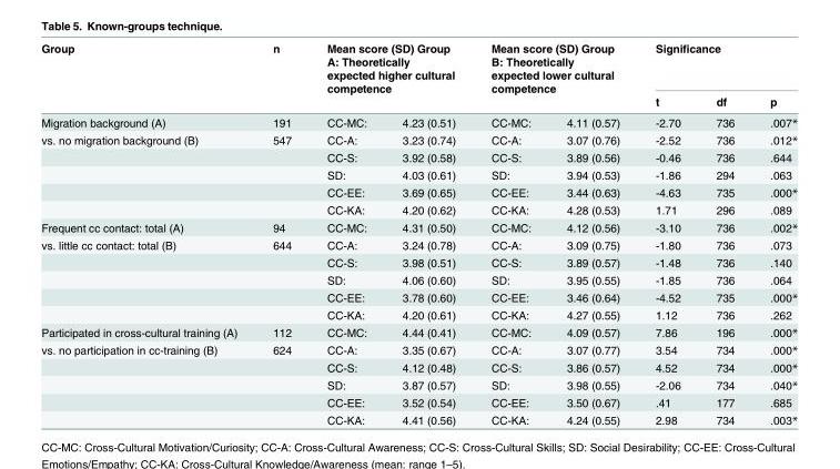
<table><thead><tr><td rowspan="2">Group</td><td rowspan="2">n</td><td colspan="2">Mean score (SD) Group A: Theoretically expected higher cultural competence</td><td colspan="2">Mean score (SD) Group B: Theoretically expected lower cultural competence</td><td colspan="3">Significance</td></tr><tr><td></td><td></td><td></td><td></td><td>t</td><td>df</td><td>p</td></tr></thead><tbody><tr><td>Migration background (A)</td><td>191</td><td>CC-MC:</td><td>4.23 (0.51)</td><td>CC-MC:</td><td>4.11 (0.57)</td><td>-2.70</td><td>736</td><td>.007*</td></tr><tr><td rowspan="5">vs. no migration background (B)</td><td>547</td><td>CC-A:</td><td>3.23 (0.74)</td><td>CC-A:</td><td>3.07 (0.76)</td><td>-2.52</td><td>736</td><td>.012*</td></tr><tr><td></td><td>CC-S:</td><td>3.92 (0.58)</td><td>CC-S:</td><td>3.89 (0.56)</td><td>-0.46</td><td>736</td><td>.644</td></tr><tr><td></td><td>SD:</td><td>4.03 (0.61)</td><td>SD:</td><td>3.94 (0.53)</td><td>-1.86</td><td>294</td><td>.063</td></tr><tr><td></td><td>CC-EE:</td><td>3.69 (0.65)</td><td>CC-EE:</td><td>3.44 (0.63)</td><td>-4.63</td><td>735</td><td>.000*</td></tr><tr><td></td><td>CC-KA:</td><td>4.20 (0.62)</td><td>CC-KA:</td><td>4.28 (0.53)</td><td>1.71</td><td>296</td><td>.089</td></tr><tr><td>Frequent cc contact: total (A)</td><td>94</td><td>CC-MC:</td><td>4.31 (0.50)</td><td>CC-MC:</td><td>4.12 (0.56)</td><td>-3.10</td><td>736</td><td>.002*</td></tr><tr><td rowspan="5">vs. little cc contact: total (B)</td><td>644</td><td>CC-A:</td><td>3.24 (0.78)</td><td>CC-A:</td><td>3.09 (0.75)</td><td>-1.80</td><td>736</td><td>.073</td></tr><tr><td></td><td>CC-S:</td><td>3.98 (0.51)</td><td>CC-S:</td><td>3.89 (0.57)</td><td>-1.48</td><td>736</td><td>.140</td></tr><tr><td></td><td>SD:</td><td>4.06 (0.60)</td><td>SD:</td><td>3.95 (0.55)</td><td>-1.85</td><td>736</td><td>.064</td></tr><tr><td></td><td>CC-EE:</td><td>3.78 (0.60)</td><td>CC-EE:</td><td>3.46 (0.64)</td><td>-4.52</td><td>735</td><td>.000*</td></tr><tr><td></td><td>CC-KA:</td><td>4.20 (0.61)</td><td>CC-KA:</td><td>4.27 (0.55)</td><td>1.12</td><td>736</td><td>.262</td></tr><tr><td>Participated in cross-cultural training (A)</td><td>112</td><td>CC-MC:</td><td>4.44 (0.41)</td><td>CC-MC:</td><td>4.09 (0.57)</td><td>7.86</td><td>196</td><td>.000*</td></tr><tr><td rowspan="5">vs. no participation in cc-training (B)</td><td>624</td><td>CC-A:</td><td>3.35 (0.67)</td><td>CC-A:</td><td>3.07 (0.77)</td><td>3.54</td><td>734</td><td>.000*</td></tr><tr><td></td><td>CC-S:</td><td>4.12 (0.48)</td><td>CC-S:</td><td>3.86 (0.57)</td><td>4.52</td><td>734</td><td>.000*</td></tr><tr><td></td><td>SD:</td><td>3.87 (0.57)</td><td>SD:</td><td>3.98 (0.55)</td><td>-2.06</td><td>734</td><td>.040*</td></tr><tr><td></td><td>CC-EE:</td><td>3.52 (0.54)</td><td>CC-EE:</td><td>3.50 (0.67)</td><td>.41</td><td>177</td><td>.685</td></tr><tr><td></td><td>CC-KA:</td><td>4.41 (0.56)</td><td>CC-KA:</td><td>4.24 (0.55)</td><td>2.98</td><td>734</td><td>.003*</td></tr></tbody></table>